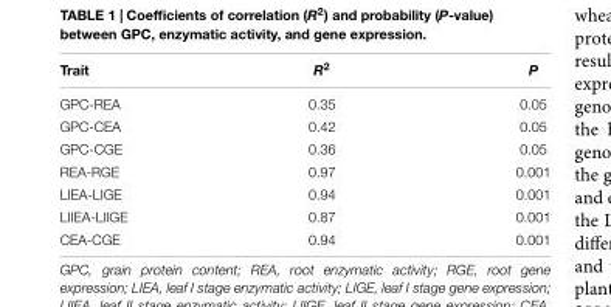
<table><thead><tr><td>Trait</td><td>R<sup>2</sup></td><td>P</td></tr></thead><tbody><tr><td>GPC-REA</td><td>0.35</td><td>0.05</td></tr><tr><td>GPC-CEA</td><td>0.42</td><td>0.05</td></tr><tr><td>GPC-CGE</td><td>0.36</td><td>0.05</td></tr><tr><td>REA-RGE</td><td>0.97</td><td>0.001</td></tr><tr><td>LIEA-LIGE</td><td>0.94</td><td>0.001</td></tr><tr><td>LIIEA-LIIGE</td><td>0.87</td><td>0.001</td></tr><tr><td>CEA-CGE</td><td>0.94</td><td>0.001</td></tr></tbody></table>